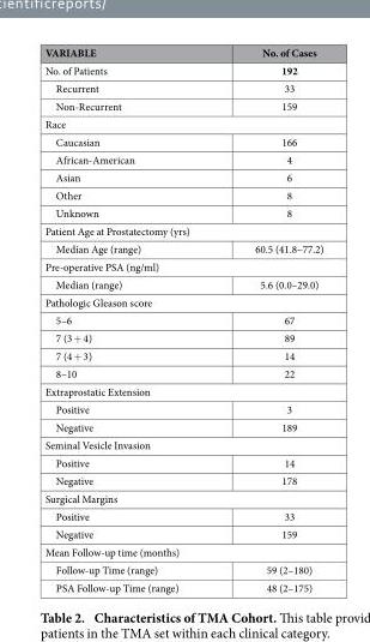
<table><thead><tr><td>VARIABLE</td><td>No. of Cases</td></tr></thead><tbody><tr><td>No. of Patients</td><td>192</td></tr><tr><td>Recurrent</td><td>33</td></tr><tr><td>Non-Recurrent</td><td>159</td></tr><tr><td colspan="2">Race</td></tr><tr><td>Caucasian</td><td>166</td></tr><tr><td>African-American</td><td>4</td></tr><tr><td>Asian</td><td>6</td></tr><tr><td>Other</td><td>8</td></tr><tr><td>Unknown</td><td>8</td></tr><tr><td colspan="2">Patient Age at Prostatectomy (yrs)</td></tr><tr><td>Median Age (range)</td><td>60.5 (41.8–77.2)</td></tr><tr><td colspan="2">Pre-operative PSA (ng/ml)</td></tr><tr><td>Median (range)</td><td>5.6 (0.0–29.0)</td></tr><tr><td colspan="2">Pathologic Gleason score</td></tr><tr><td>5–6</td><td>67</td></tr><tr><td>7 (3 + 4)</td><td>89</td></tr><tr><td>7 (4 + 3)</td><td>14</td></tr><tr><td>8–10</td><td>22</td></tr><tr><td colspan="2">Extraprostatic Extension</td></tr><tr><td>Positive</td><td>3</td></tr><tr><td>Negative</td><td>189</td></tr><tr><td colspan="2">Seminal Vesicle Invasion</td></tr><tr><td>Positive</td><td>14</td></tr><tr><td>Negative</td><td>178</td></tr><tr><td colspan="2">Surgical Margins</td></tr><tr><td>Positive</td><td>33</td></tr><tr><td>Negative</td><td>159</td></tr><tr><td colspan="2">Mean Follow-up time (months)</td></tr><tr><td>Follow-up Time (range)</td><td>59 (2–180)</td></tr><tr><td>PSA Follow-up Time (range)</td><td>48 (2–175)</td></tr></tbody></table>